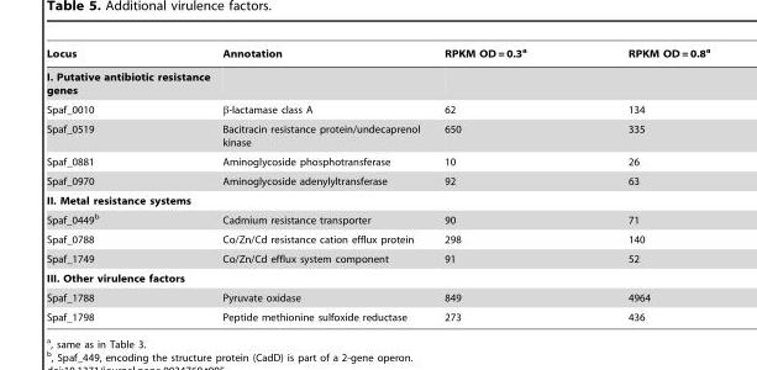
<table><thead><tr><td>Locus</td><td>Annotation</td><td>RPKM OD = 0.3<sup>a</sup></td><td>RPKM OD = 0.8<sup>a</sup></td></tr></thead><tbody><tr><td colspan="4">I. Putative antibiotic resistance genes</td></tr><tr><td>Spaf_0010</td><td>β-lactamase class A</td><td>62</td><td>134</td></tr><tr><td>Spaf_0519</td><td>Bacitracin resistance protein/undecaprenol kinase</td><td>650</td><td>335</td></tr><tr><td>Spaf_0881</td><td>Aminoglycoside phosphotransferase</td><td>10</td><td>26</td></tr><tr><td>Spaf_0970</td><td>Aminoglycoside adenylyltransferase</td><td>92</td><td>63</td></tr><tr><td colspan="4">II. Metal resistance systems</td></tr><tr><td>Spaf_0449<sup>b</sup></td><td>Cadmium resistance transporter</td><td>90</td><td>71</td></tr><tr><td>Spaf_0788</td><td>Co/Zn/Cd resistance cation efflux protein</td><td>298</td><td>140</td></tr><tr><td>Spaf_1749</td><td>Co/Zn/Cd efflux system component</td><td>91</td><td>52</td></tr><tr><td colspan="4">III. Other virulence factors</td></tr><tr><td>Spaf_1788</td><td>Pyruvate oxidase</td><td>849</td><td>4964</td></tr><tr><td>Spaf_1798</td><td>Peptide methionine sulfoxide reductase</td><td>273</td><td>436</td></tr></tbody></table>